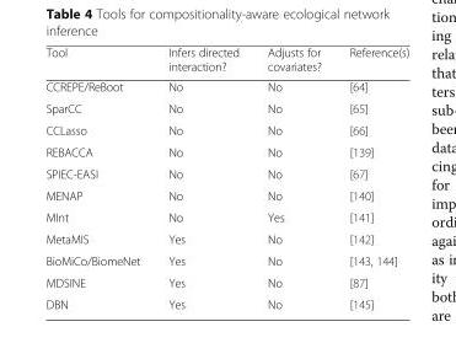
<table><thead><tr><td>Tool</td><td>Infers directed interaction?</td><td>Adjusts for covariates?</td><td>Reference(s)</td></tr></thead><tbody><tr><td>CCREPE/ReBoot</td><td>No</td><td>No</td><td>[64]</td></tr><tr><td>SparCC</td><td>No</td><td>No</td><td>[65]</td></tr><tr><td>CCLasso</td><td>No</td><td>No</td><td>[66]</td></tr><tr><td>REBACCA</td><td>No</td><td>No</td><td>[139]</td></tr><tr><td>SPIEC-EASI</td><td>No</td><td>No</td><td>[67]</td></tr><tr><td>MENAP</td><td>No</td><td>No</td><td>[140]</td></tr><tr><td>MInt</td><td>No</td><td>Yes</td><td>[141]</td></tr><tr><td>MetaMIS</td><td>Yes</td><td>No</td><td>[142]</td></tr><tr><td>BioMiCo/BiomeNet</td><td>Yes</td><td>No</td><td>[143, 144]</td></tr><tr><td>MDSINE</td><td>Yes</td><td>No</td><td>[87]</td></tr><tr><td>DBN</td><td>Yes</td><td>No</td><td>[145]</td></tr></tbody></table>